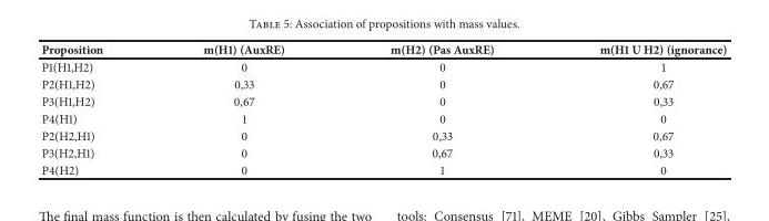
<table><thead><tr><td>Proposition</td><td>m(H1) (AuxRE)</td><td>m(H2) (Pas AuxRE)</td><td>m(H1 U H2) (ignorance)</td></tr></thead><tbody><tr><td>P1(H1,H2)</td><td>0</td><td>0</td><td>1</td></tr><tr><td>P2(H1,H2)</td><td>0,33</td><td>0</td><td>0,67</td></tr><tr><td>P3(H1,H2)</td><td>0,67</td><td>0</td><td>0,33</td></tr><tr><td>P4(H1)</td><td>1</td><td>0</td><td>0</td></tr><tr><td>P2(H2,H1)</td><td>0</td><td>0,33</td><td>0,67</td></tr><tr><td>P3(H2,H1)</td><td>0</td><td>0,67</td><td>0,33</td></tr><tr><td>P4(H2)</td><td>0</td><td>1</td><td>0</td></tr></tbody></table>